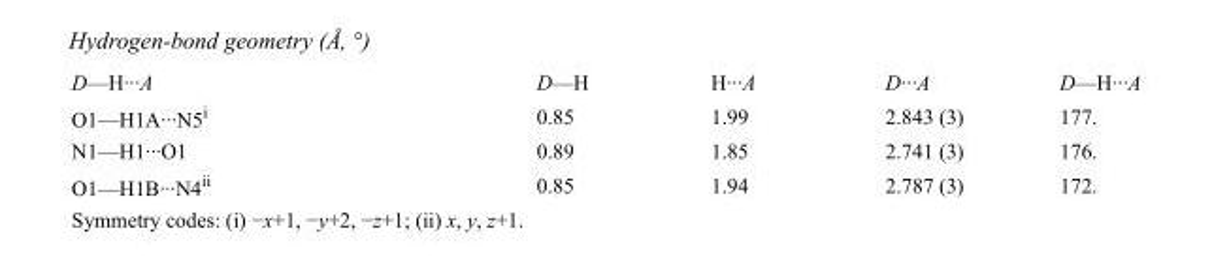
<table><tbody><tr><td>D—H···A</td><td>D—H</td><td>H···A</td><td>D···A</td><td>D—H···A</td></tr><tr><td>O1—H1A···N5<sup>i</sup></td><td>0.85</td><td>1.99</td><td>2.843 (3)</td><td>177.</td></tr><tr><td>N1—H1···O1</td><td>0.89</td><td>1.85</td><td>2.741 (3)</td><td>176.</td></tr><tr><td>O1—H1B···N4<sup>ii</sup></td><td>0.85</td><td>1.94</td><td>2.787 (3)</td><td>172.</td></tr></tbody></table>